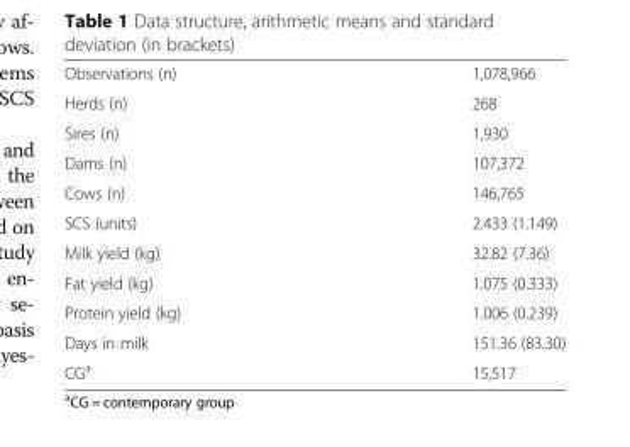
<table><tbody><tr><td>Observations (n)</td><td>1,078,966</td></tr><tr><td>Herds (n)</td><td>268</td></tr><tr><td>Sires (n)</td><td>1,930</td></tr><tr><td>Dams (n)</td><td>107,372</td></tr><tr><td>Cows (n)</td><td>146,765</td></tr><tr><td>SCS (units)</td><td>2.433 (1.149)</td></tr><tr><td>Milk yield (kg)</td><td>32.82 (7.36)</td></tr><tr><td>Fat yield (kg)</td><td>1.075 (0.333)</td></tr><tr><td>Protein yield (kg)</td><td>1.006 (0.239)</td></tr><tr><td>Days in milk</td><td>151.36 (83.30)</td></tr><tr><td>CG<sup>a</sup></td><td>15,517</td></tr></tbody></table>